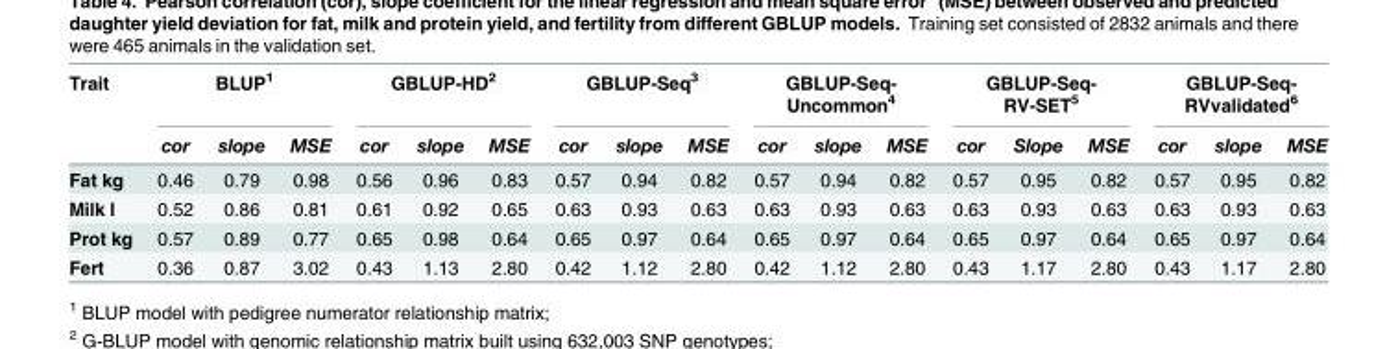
<table><thead><tr><td rowspan="2">Trait</td><td colspan="3">BLUP<sup>1</sup></td><td colspan="3">GBLUP-HD<sup>2</sup></td><td colspan="3">GBLUP-Seq<sup>3</sup></td><td colspan="3">GBLUP-Seq- Uncommon<sup>4</sup></td><td colspan="3">GBLUP-Seq- RV-SET<sup>5</sup></td><td colspan="3">GBLUP-Seq- RVvalidated<sup>6</sup></td></tr><tr><td>cor</td><td>slope</td><td>MSE</td><td>cor</td><td>slope</td><td>MSE</td><td>cor</td><td>slope</td><td>MSE</td><td>cor</td><td>slope</td><td>MSE</td><td>cor</td><td>Slope</td><td>MSE</td><td>cor</td><td>slope</td><td>MSE</td></tr></thead><tbody><tr><td>Fat kg</td><td>0.46</td><td>0.79</td><td>0.98</td><td>0.56</td><td>0.96</td><td>0.83</td><td>0.57</td><td>0.94</td><td>0.82</td><td>0.57</td><td>0.94</td><td>0.82</td><td>0.57</td><td>0.95</td><td>0.82</td><td>0.57</td><td>0.95</td><td>0.82</td></tr><tr><td>Milk l</td><td>0.52</td><td>0.86</td><td>0.81</td><td>0.61</td><td>0.92</td><td>0.65</td><td>0.63</td><td>0.93</td><td>0.63</td><td>0.63</td><td>0.93</td><td>0.63</td><td>0.63</td><td>0.93</td><td>0.63</td><td>0.63</td><td>0.93</td><td>0.63</td></tr><tr><td>Prot kg</td><td>0.57</td><td>0.89</td><td>0.77</td><td>0.65</td><td>0.98</td><td>0.64</td><td>0.65</td><td>0.97</td><td>0.64</td><td>0.65</td><td>0.97</td><td>0.64</td><td>0.65</td><td>0.97</td><td>0.64</td><td>0.65</td><td>0.97</td><td>0.64</td></tr><tr><td>Fert</td><td>0.36</td><td>0.87</td><td>3.02</td><td>0.43</td><td>1.13</td><td>2.80</td><td>0.42</td><td>1.12</td><td>2.80</td><td>0.42</td><td>1.12</td><td>2.80</td><td>0.43</td><td>1.17</td><td>2.80</td><td>0.43</td><td>1.17</td><td>2.80</td></tr></tbody></table>